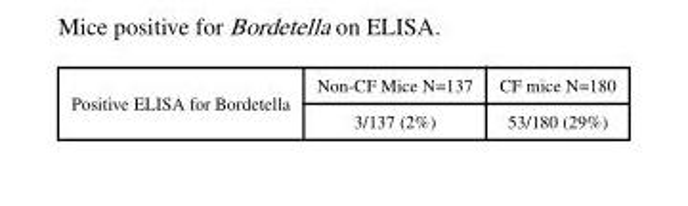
<table><tbody><tr><td rowspan="2">Positive ELISA for Bordetella</td><td>Non-CF Mice N=137</td><td>CF mice N=180</td></tr><tr><td>3/137 (2%)</td><td>53/180 (29%)</td></tr></tbody></table>